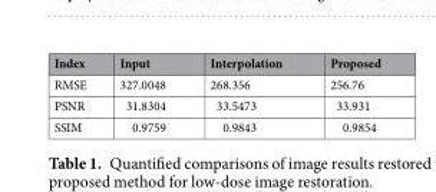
<table><thead><tr><td>Index</td><td>Input</td><td>Interpolation</td><td>Proposed</td></tr></thead><tbody><tr><td>RMSE</td><td>327.0048</td><td>268.356</td><td>256.76</td></tr><tr><td>PSNR</td><td>31.8304</td><td>33.5473</td><td>33.931</td></tr><tr><td>SSIM</td><td>0.9759</td><td>0.9843</td><td>0.9854</td></tr></tbody></table>